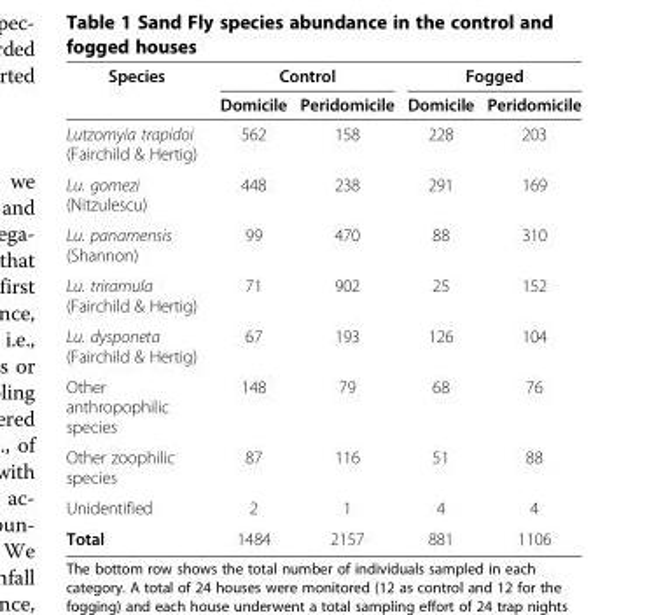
<table><thead><tr><td rowspan="2">Species</td><td colspan="2">Control</td><td colspan="2">Fogged</td></tr><tr><td>Domicile</td><td>Peridomicile</td><td>Domicile</td><td>Peridomicile</td></tr></thead><tbody><tr><td>Lutzomyia trapidoi (Fairchild &amp; Hertig)</td><td>562</td><td>158</td><td>228</td><td>203</td></tr><tr><td>Lu. gomezi (Nitzulescu)</td><td>448</td><td>238</td><td>291</td><td>169</td></tr><tr><td>Lu. panamensis (Shannon)</td><td>99</td><td>470</td><td>88</td><td>310</td></tr><tr><td>Lu. triramula (Fairchild &amp; Hertig)</td><td>71</td><td>902</td><td>25</td><td>152</td></tr><tr><td>Lu. dysponeta (Fairchild &amp; Hertig)</td><td>67</td><td>193</td><td>126</td><td>104</td></tr><tr><td>Other anthropophilic species</td><td>148</td><td>79</td><td>68</td><td>76</td></tr><tr><td>Other zoophilic species</td><td>87</td><td>116</td><td>51</td><td>88</td></tr><tr><td>Unidentified</td><td>2</td><td>1</td><td>4</td><td>4</td></tr><tr><td>Total</td><td>1484</td><td>2157</td><td>881</td><td>1106</td></tr></tbody></table>